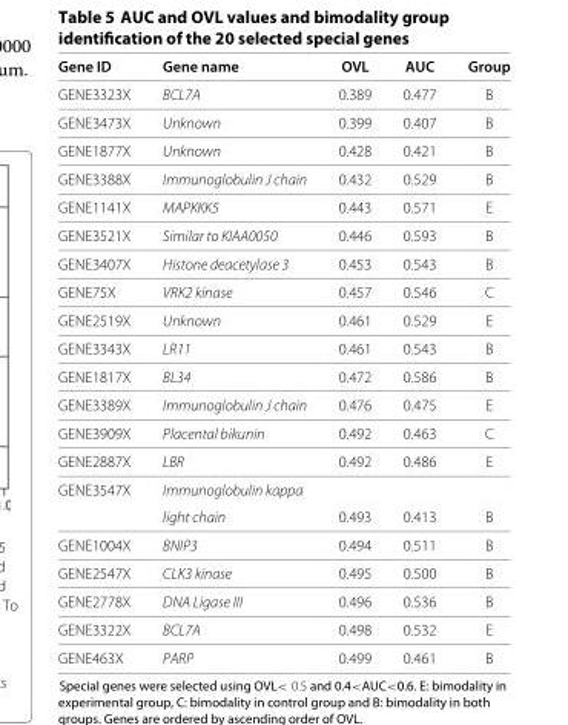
<table><thead><tr><td>Gene ID</td><td>Gene name</td><td>OVL</td><td>AUC</td><td>Group</td></tr></thead><tbody><tr><td>GENE3323X</td><td>BCL7A</td><td>0.389</td><td>0.477</td><td>B</td></tr><tr><td>GENE3473X</td><td>Unknown</td><td>0.399</td><td>0.407</td><td>B</td></tr><tr><td>GENE1877X</td><td>Unknown</td><td>0.428</td><td>0.421</td><td>B</td></tr><tr><td>GENE3388X</td><td>Immunoglobulin J chain</td><td>0.432</td><td>0.529</td><td>B</td></tr><tr><td>GENE1141X</td><td>MAPKKK5</td><td>0.443</td><td>0.571</td><td>E</td></tr><tr><td>GENE3521X</td><td>Similar to KIAA0050</td><td>0.446</td><td>0.593</td><td>B</td></tr><tr><td>GENE3407X</td><td>Histone deacetylase 3</td><td>0.453</td><td>0.543</td><td>B</td></tr><tr><td>GENE75X</td><td>VRK2 kinase</td><td>0.457</td><td>0.546</td><td>C</td></tr><tr><td>GENE2519X</td><td>Unknown</td><td>0.461</td><td>0.529</td><td>E</td></tr><tr><td>GENE3343X</td><td>LR11</td><td>0.461</td><td>0.543</td><td>B</td></tr><tr><td>GENE1817X</td><td>BL34</td><td>0.472</td><td>0.586</td><td>B</td></tr><tr><td>GENE3389X</td><td>Immunoglobulin J chain</td><td>0.476</td><td>0.475</td><td>E</td></tr><tr><td>GENE3909X</td><td>Placental bikunin</td><td>0.492</td><td>0.463</td><td>C</td></tr><tr><td>GENE2887X</td><td>LBR</td><td>0.492</td><td>0.486</td><td>E</td></tr><tr><td rowspan="2">GENE3547X</td><td>Immunoglobulin kappa</td><td></td><td></td><td></td></tr><tr><td>light chain</td><td>0.493</td><td>0.413</td><td>B</td></tr><tr><td>GENE1004X</td><td>BNIP3</td><td>0.494</td><td>0.511</td><td>B</td></tr><tr><td>GENE2547X</td><td>CLK3 kinase</td><td>0.495</td><td>0.500</td><td>B</td></tr><tr><td>GENE2778X</td><td>DNA Ligase III</td><td>0.496</td><td>0.536</td><td>B</td></tr><tr><td>GENE3322X</td><td>BCL7A</td><td>0.498</td><td>0.532</td><td>E</td></tr><tr><td>GENE463X</td><td>PARP</td><td>0.499</td><td>0.461</td><td>B</td></tr></tbody></table>